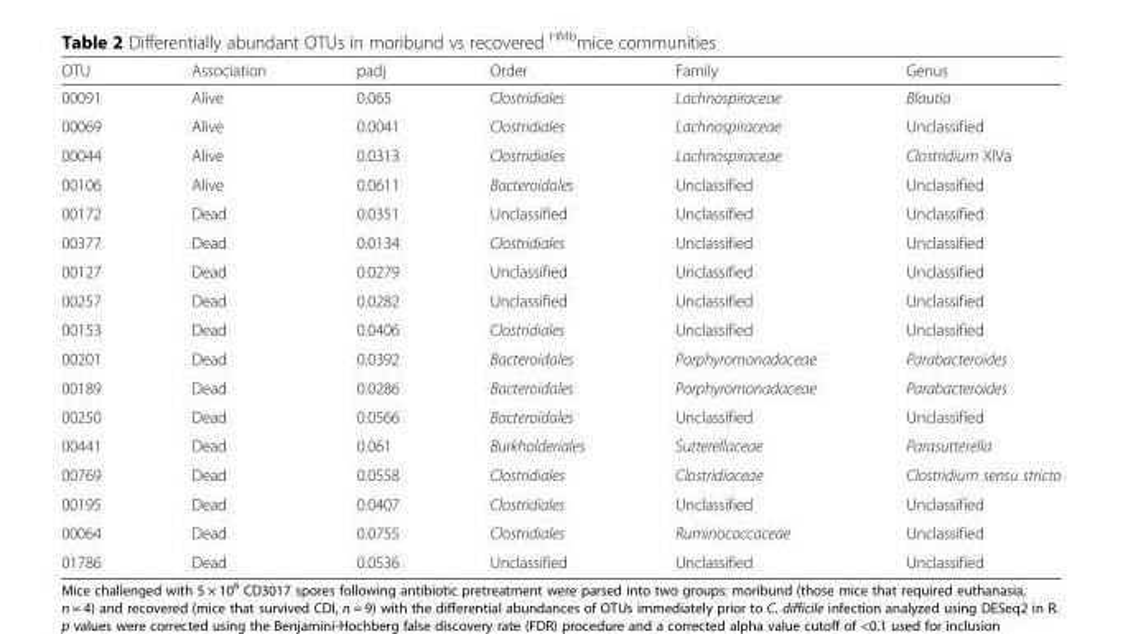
<table><thead><tr><td>OTU</td><td>Association</td><td>padj</td><td>Order</td><td>Family</td><td>Genus</td></tr></thead><tbody><tr><td>00091</td><td>Alive</td><td>0.065</td><td>Clostridiales</td><td>Lachnospiraceae</td><td>Blautia</td></tr><tr><td>00069</td><td>Alive</td><td>0.0041</td><td>Clostridiales</td><td>Lachnospiraceae</td><td>Unclassified</td></tr><tr><td>00044</td><td>Alive</td><td>0.0313</td><td>Clostridiales</td><td>Lachnospiraceae</td><td>Clostridium XIVa</td></tr><tr><td>00106</td><td>Alive</td><td>0.0611</td><td>Bacteroidales</td><td>Unclassified</td><td>Unclassified</td></tr><tr><td>00172</td><td>Dead</td><td>0.0351</td><td>Unclassified</td><td>Unclassified</td><td>Unclassified</td></tr><tr><td>00377</td><td>Dead</td><td>0.0134</td><td>Clostridiales</td><td>Unclassified</td><td>Unclassified</td></tr><tr><td>00127</td><td>Dead</td><td>0.0279</td><td>Unclassified</td><td>Unclassified</td><td>Unclassified</td></tr><tr><td>00257</td><td>Dead</td><td>0.0282</td><td>Unclassified</td><td>Unclassified</td><td>Unclassified</td></tr><tr><td>00153</td><td>Dead</td><td>0.0406</td><td>Clostridiales</td><td>Unclassified</td><td>Unclassified</td></tr><tr><td>00201</td><td>Dead</td><td>0.0392</td><td>Bacteroidales</td><td>Porphyromonadaceae</td><td>Parabacteroides</td></tr><tr><td>00189</td><td>Dead</td><td>0.0286</td><td>Bacteroidales</td><td>Porphyromonadaceae</td><td>Parabacteroides</td></tr><tr><td>00250</td><td>Dead</td><td>0.0566</td><td>Bacteroidales</td><td>Unclassified</td><td>Unclassified</td></tr><tr><td>00441</td><td>Dead</td><td>0.061</td><td>Burkholderiales</td><td>Sutterellaceae</td><td>Parasutterella</td></tr><tr><td>00769</td><td>Dead</td><td>0.0558</td><td>Clostridiales</td><td>Clostridiaceae</td><td>Clostridium sensu stricto</td></tr><tr><td>00195</td><td>Dead</td><td>0.0407</td><td>Clostridiales</td><td>Unclassified</td><td>Unclassified</td></tr><tr><td>00064</td><td>Dead</td><td>0.0755</td><td>Clostridiales</td><td>Ruminococcaceae</td><td>Unclassified</td></tr><tr><td>01786</td><td>Dead</td><td>0.0536</td><td>Unclassified</td><td>Unclassified</td><td>Unclassified</td></tr></tbody></table>